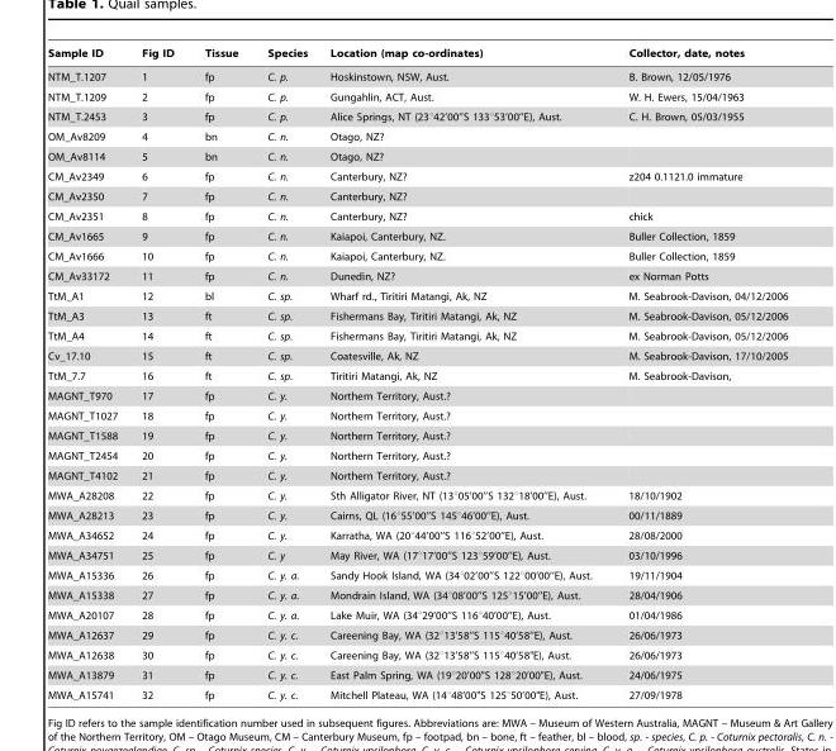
<table><thead><tr><td>Sample ID</td><td>Fig ID</td><td>Tissue</td><td>Species</td><td>Location (map co-ordinates)</td><td>Collector, date, notes</td></tr></thead><tbody><tr><td>NTM_T.1207</td><td>1</td><td>fp</td><td>C. p.</td><td>Hoskinstown, NSW, Aust.</td><td>B. Brown, 12/05/1976</td></tr><tr><td>NTM_T.1209</td><td>2</td><td>fp</td><td>C. p.</td><td>Gungahlin, ACT, Aust.</td><td>W. H. Ewers, 15/04/1963</td></tr><tr><td>NTM_T.2453</td><td>3</td><td>fp</td><td>C. p.</td><td>Alice Springs, NT (23°42’00’’S 133°53’00’’E), Aust.</td><td>C. H. Brown, 05/03/1955</td></tr><tr><td>OM_Av8209</td><td>4</td><td>bn</td><td>C. n.</td><td>Otago, NZ?</td><td></td></tr><tr><td>OM_Av8114</td><td>5</td><td>bn</td><td>C. n.</td><td>Otago, NZ?</td><td></td></tr><tr><td>CM_Av2349</td><td>6</td><td>fp</td><td>C. n.</td><td>Canterbury, NZ?</td><td>z204 0.1121.0 immature</td></tr><tr><td>CM_Av2350</td><td>7</td><td>fp</td><td>C. n.</td><td>Canterbury, NZ?</td><td></td></tr><tr><td>CM_Av2351</td><td>8</td><td>fp</td><td>C. n.</td><td>Canterbury, NZ?</td><td>chick</td></tr><tr><td>CM_Av1665</td><td>9</td><td>fp</td><td>C. n.</td><td>Kaiapoi, Canterbury, NZ.</td><td>Buller Collection, 1859</td></tr><tr><td>CM_Av1666</td><td>10</td><td>fp</td><td>C. n.</td><td>Kaiapoi, Canterbury, NZ.</td><td>Buller Collection, 1859</td></tr><tr><td>CM_Av33172</td><td>11</td><td>fp</td><td>C. n.</td><td>Dunedin, NZ?</td><td>ex Norman Potts</td></tr><tr><td>TtM_A1</td><td>12</td><td>bl</td><td>C. sp.</td><td>Wharf rd., Tiritiri Matangi, Ak, NZ</td><td>M. Seabrook-Davison, 04/12/2006</td></tr><tr><td>TtM_A3</td><td>13</td><td>ft</td><td>C. sp.</td><td>Fishermans Bay, Tiritiri Matangi, Ak, NZ</td><td>M. Seabrook-Davison, 05/12/2006</td></tr><tr><td>TtM_A4</td><td>14</td><td>ft</td><td>C. sp.</td><td>Fishermans Bay, Tiritiri Matangi, Ak, NZ</td><td>M. Seabrook-Davison, 05/12/2006</td></tr><tr><td>Cv_17.10</td><td>15</td><td>ft</td><td>C. sp.</td><td>Coatesville, Ak, NZ</td><td>M. Seabrook-Davison, 17/10/2005</td></tr><tr><td>TtM_7.7</td><td>16</td><td>ft</td><td>C. sp.</td><td>Tiritiri Matangi, Ak, NZ</td><td>M. Seabrook-Davison,</td></tr><tr><td>MAGNT_T970</td><td>17</td><td>fp</td><td>C. y.</td><td>Northern Territory, Aust.?</td><td></td></tr><tr><td>MAGNT_T1027</td><td>18</td><td>fp</td><td>C. y.</td><td>Northern Territory, Aust.?</td><td></td></tr><tr><td>MAGNT_T1588</td><td>19</td><td>fp</td><td>C. y.</td><td>Northern Territory, Aust.?</td><td></td></tr><tr><td>MAGNT_T2454</td><td>20</td><td>fp</td><td>C. y.</td><td>Northern Territory, Aust.?</td><td></td></tr><tr><td>MAGNT_T4102</td><td>21</td><td>fp</td><td>C. y.</td><td>Northern Territory, Aust.?</td><td></td></tr><tr><td>MWA_A28208</td><td>22</td><td>fp</td><td>C. y.</td><td>Sth Alligator River, NT (13°05’00’’S 132°18’00’’E), Aust.</td><td>18/10/1902</td></tr><tr><td>MWA_A28213</td><td>23</td><td>fp</td><td>C. y.</td><td>Cairns, QL (16°55’00’’S 145°46’00’’E), Aust.</td><td>00/11/1889</td></tr><tr><td>MWA_A34652</td><td>24</td><td>fp</td><td>C. y.</td><td>Karratha, WA (20°44’00’’S 116°52’00’’E), Aust.</td><td>28/08/2000</td></tr><tr><td>MWA_A34751</td><td>25</td><td>fp</td><td>C. y</td><td>May River, WA (17°17’00’’S 123°59’00’’E), Aust.</td><td>03/10/1996</td></tr><tr><td>MWA_A15336</td><td>26</td><td>fp</td><td>C. y. a.</td><td>Sandy Hook Island, WA (34°02’00’’S 122°00’00’’E), Aust.</td><td>19/11/1904</td></tr><tr><td>MWA_A15338</td><td>27</td><td>fp</td><td>C. y. a.</td><td>Mondrain Island, WA (34°08’00’’S 125°15’00’’E), Aust.</td><td>28/04/1906</td></tr><tr><td>MWA_A20107</td><td>28</td><td>fp</td><td>C. y. a.</td><td>Lake Muir, WA (34°29’00’’S 116°40’00’’E), Aust.</td><td>01/04/1986</td></tr><tr><td>MWA_A12637</td><td>29</td><td>fp</td><td>C. y. c.</td><td>Careening Bay, WA (32°13’58’’S 115°40’58’’E), Aust.</td><td>26/06/1973</td></tr><tr><td>MWA_A12638</td><td>30</td><td>fp</td><td>C. y. c.</td><td>Careening Bay, WA (32°13’58’’S 115°40’58&quot;E), Aust.</td><td>26/06/1973</td></tr><tr><td>MWA_A13879</td><td>31</td><td>fp</td><td>C. y. c.</td><td>East Palm Spring, WA (19°20’00&quot;S 128°20’00&quot;E), Aust.</td><td>24/06/1975</td></tr><tr><td>MWA_A15741</td><td>32</td><td>fp</td><td>C. y. c.</td><td>Mitchell Plateau, WA (14°48’00&quot;S 125°50’00&quot;E), Aust.</td><td>27/09/1978</td></tr></tbody></table>